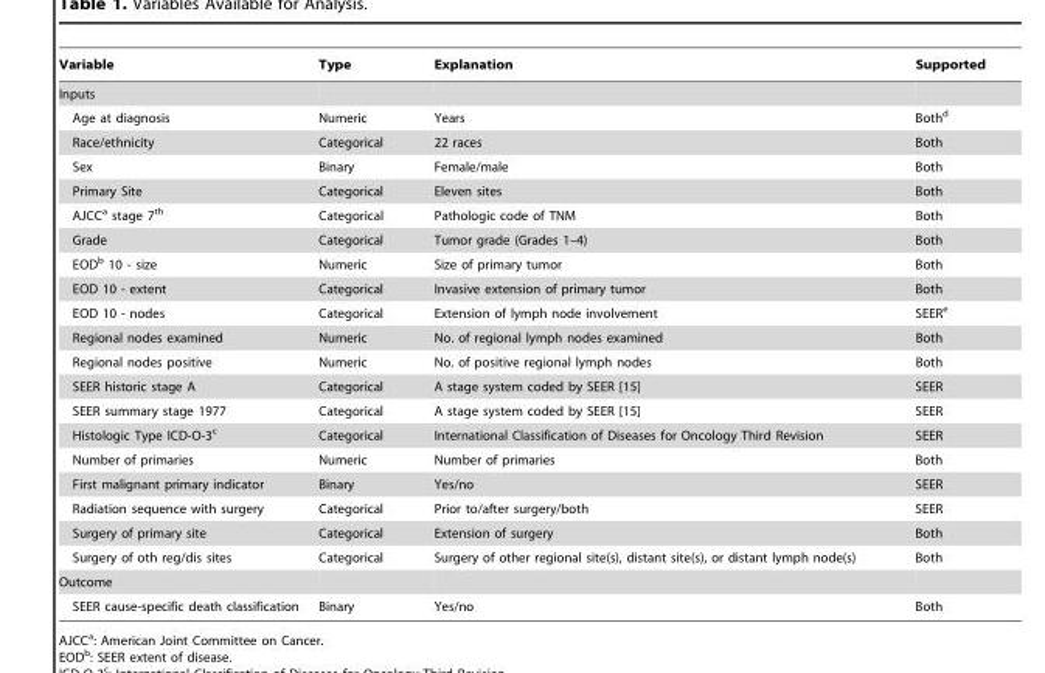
<table><thead><tr><td>Variable</td><td>Type</td><td>Explanation</td><td>Supported</td></tr></thead><tbody><tr><td colspan="4">Inputs</td></tr><tr><td>Age at diagnosis</td><td>Numeric</td><td>Years</td><td>Both<sup>d</sup></td></tr><tr><td>Race/ethnicity</td><td>Categorical</td><td>22 races</td><td>Both</td></tr><tr><td>Sex</td><td>Binary</td><td>Female/male</td><td>Both</td></tr><tr><td>Primary Site</td><td>Categorical</td><td>Eleven sites</td><td>Both</td></tr><tr><td>AJCC<sup>a</sup> stage 7<sup>th</sup></td><td>Categorical</td><td>Pathologic code of TNM</td><td>Both</td></tr><tr><td>Grade</td><td>Categorical</td><td>Tumor grade (Grades 1–4)</td><td>Both</td></tr><tr><td>EOD<sup>b</sup> 10 - size</td><td>Numeric</td><td>Size of primary tumor</td><td>Both</td></tr><tr><td>EOD 10 - extent</td><td>Categorical</td><td>Invasive extension of primary tumor</td><td>Both</td></tr><tr><td>EOD 10 - nodes</td><td>Categorical</td><td>Extension of lymph node involvement</td><td>SEER<sup>e</sup></td></tr><tr><td>Regional nodes examined</td><td>Numeric</td><td>No. of regional lymph nodes examined</td><td>Both</td></tr><tr><td>Regional nodes positive</td><td>Numeric</td><td>No. of positive regional lymph nodes</td><td>Both</td></tr><tr><td>SEER historic stage A</td><td>Categorical</td><td>A stage system coded by SEER [15]</td><td>SEER</td></tr><tr><td>SEER summary stage 1977</td><td>Categorical</td><td>A stage system coded by SEER [15]</td><td>SEER</td></tr><tr><td>Histologic Type ICD-O-3<sup>c</sup></td><td>Categorical</td><td>International Classification of Diseases for Oncology Third Revision</td><td>SEER</td></tr><tr><td>Number of primaries</td><td>Numeric</td><td>Number of primaries</td><td>Both</td></tr><tr><td>First malignant primary indicator</td><td>Binary</td><td>Yes/no</td><td>SEER</td></tr><tr><td>Radiation sequence with surgery</td><td>Categorical</td><td>Prior to/after surgery/both</td><td>SEER</td></tr><tr><td>Surgery of primary site</td><td>Categorical</td><td>Extension of surgery</td><td>Both</td></tr><tr><td>Surgery of oth reg/dis sites</td><td>Categorical</td><td>Surgery of other regional site(s), distant site(s), or distant lymph node(s)</td><td>Both</td></tr><tr><td colspan="4">Outcome</td></tr><tr><td>SEER cause-specific death classification</td><td>Binary</td><td>Yes/no</td><td>Both</td></tr></tbody></table>